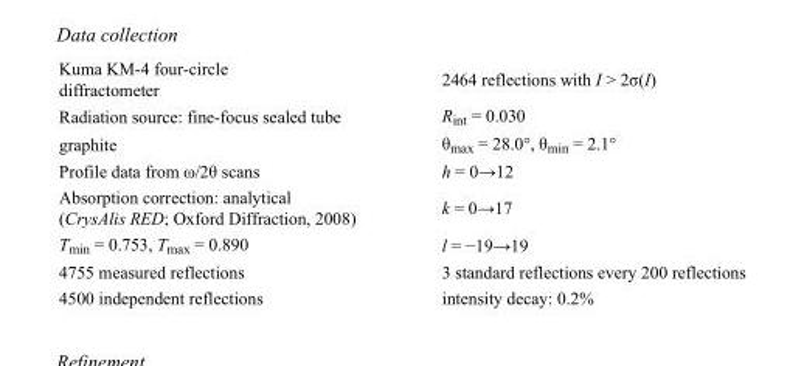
<table><tbody><tr><td>Kuma KM-4 four-circle diffractometer</td><td>2464 reflections with I &gt; 2σ(I)</td></tr><tr><td>Radiation source: fine-focus sealed tube</td><td>R<sub>int</sub> = 0.030</td></tr><tr><td>graphite</td><td>θ<sub>max</sub> = 28.0°, θ<sub>min</sub> = 2.1°</td></tr><tr><td>Profile data from ω/2θ scans</td><td>h = 0→12</td></tr><tr><td>Absorption correction: analytical (CrysAlis RED; Oxford Diffraction, 2008)</td><td>k = 0→17</td></tr><tr><td>T<sub>min</sub> = 0.753, T<sub>max</sub> = 0.890</td><td>l = −19→19</td></tr><tr><td>4755 measured reflections</td><td>3 standard reflections every 200 reflections</td></tr><tr><td>4500 independent reflections</td><td>intensity decay: 0.2%</td></tr></tbody></table>